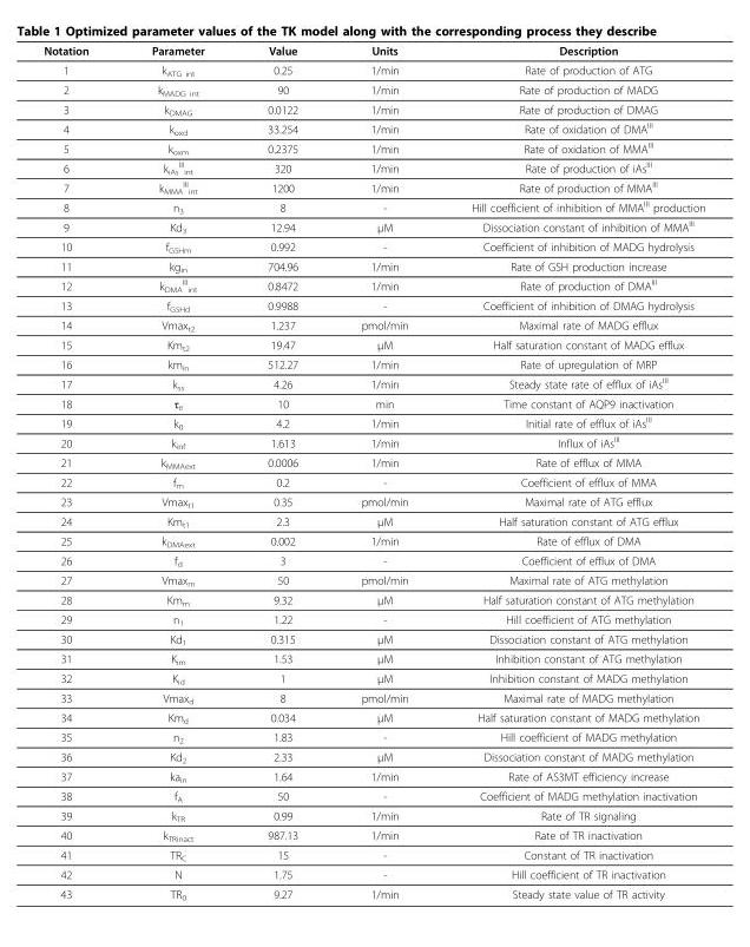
<table><thead><tr><td>Notation</td><td>Parameter</td><td>Value</td><td>Units</td><td>Description</td></tr></thead><tbody><tr><td>1</td><td>k<sub>ATG int</sub></td><td>0.25</td><td>1/min</td><td>Rate of production of ATG</td></tr><tr><td>2</td><td>k<sub>MADG int</sub></td><td>90</td><td>1/min</td><td>Rate of production of MADG</td></tr><tr><td>3</td><td>k<sub>DMAG</sub></td><td>0.0122</td><td>1/min</td><td>Rate of production of DMAG</td></tr><tr><td>4</td><td>k<sub>oxd</sub></td><td>33.254</td><td>1/min</td><td>Rate of oxidation of DMA<sup>III</sup></td></tr><tr><td>5</td><td>k<sub>oxm</sub></td><td>0.2375</td><td>1/min</td><td>Rate of oxidation of MMA<sup>III</sup></td></tr><tr><td>6</td><td>k<sub>iAs</sub> <sup>III</sup> <sub>int</sub></td><td>320</td><td>1/min</td><td>Rate of production of iAs<sup>III</sup></td></tr><tr><td>7</td><td>k<sub>MMA</sub> <sup>III</sup> <sub>int</sub></td><td>1200</td><td>1/min</td><td>Rate of production of MMA<sup>III</sup></td></tr><tr><td>8</td><td>n<sub>3</sub></td><td>8</td><td>-</td><td>Hill coefficient of inhibition of MMA<sup>III</sup> production</td></tr><tr><td>9</td><td>Kd<sub>3</sub></td><td>12.94</td><td>μM</td><td>Dissociation constant of inhibition of MMA<sup>III</sup></td></tr><tr><td>10</td><td>f<sub>GSHm</sub></td><td>0.992</td><td>-</td><td>Coefficient of inhibition of MADG hydrolysis</td></tr><tr><td>11</td><td>kg<sub>in</sub></td><td>704.96</td><td>1/min</td><td>Rate of GSH production increase</td></tr><tr><td>12</td><td>k<sub>DMA</sub> <sup>III</sup> <sub>int</sub></td><td>0.8472</td><td>1/min</td><td>Rate of production of DMA<sup>III</sup></td></tr><tr><td>13</td><td>f<sub>GSHd</sub></td><td>0.9988</td><td>-</td><td>Coefficient of inhibition of DMAG hydrolysis</td></tr><tr><td>14</td><td>Vmax<sub>t2</sub></td><td>1.237</td><td>pmol/min</td><td>Maximal rate of MADG efflux</td></tr><tr><td>15</td><td>Km<sub>t2</sub></td><td>19.47</td><td>μM</td><td>Half saturation constant of MADG efflux</td></tr><tr><td>16</td><td>km<sub>in</sub></td><td>512.27</td><td>1/min</td><td>Rate of upregulation of MRP</td></tr><tr><td>17</td><td>k<sub>ss</sub></td><td>4.26</td><td>1/min</td><td>Steady state rate of efflux of iAs<sup>III</sup></td></tr><tr><td>18</td><td>τ<sub>e</sub></td><td>10</td><td>min</td><td>Time constant of AQP9 inactivation</td></tr><tr><td>19</td><td>k<sub>0</sub></td><td>4.2</td><td>1/min</td><td>Initial rate of efflux of iAs<sup>III</sup></td></tr><tr><td>20</td><td>k<sub>inf</sub></td><td>1.613</td><td>1/min</td><td>Influx of iAs<sup>III</sup></td></tr><tr><td>21</td><td>k<sub>MMAext</sub></td><td>0.0006</td><td>1/min</td><td>Rate of efflux of MMA</td></tr><tr><td>22</td><td>f<sub>m</sub></td><td>0.2</td><td>-</td><td>Coefficient of efflux of MMA</td></tr><tr><td>23</td><td>Vmax<sub>t1</sub></td><td>0.35</td><td>pmol/min</td><td>Maximal rate of ATG efflux</td></tr><tr><td>24</td><td>Km<sub>t1</sub></td><td>2.3</td><td>μM</td><td>Half saturation constant of ATG efflux</td></tr><tr><td>25</td><td>k<sub>DMAext</sub></td><td>0.002</td><td>1/min</td><td>Rate of efflux of DMA</td></tr><tr><td>26</td><td>f<sub>d</sub></td><td>3</td><td>-</td><td>Coefficient of efflux of DMA</td></tr><tr><td>27</td><td>Vmax<sub>m</sub></td><td>50</td><td>pmol/min</td><td>Maximal rate of ATG methylation</td></tr><tr><td>28</td><td>Km<sub>m</sub></td><td>9.32</td><td>μM</td><td>Half saturation constant of ATG methylation</td></tr><tr><td>29</td><td>n<sub>1</sub></td><td>1.22</td><td>-</td><td>Hill coefficient of ATG methylation</td></tr><tr><td>30</td><td>Kd<sub>1</sub></td><td>0.315</td><td>μM</td><td>Dissociation constant of ATG methylation</td></tr><tr><td>31</td><td>K<sub>im</sub></td><td>1.53</td><td>μM</td><td>Inhibition constant of ATG methylation</td></tr><tr><td>32</td><td>K<sub>id</sub></td><td>1</td><td>μM</td><td>Inhibition constant of MADG methylation</td></tr><tr><td>33</td><td>Vmax<sub>d</sub></td><td>8</td><td>pmol/min</td><td>Maximal rate of MADG methylation</td></tr><tr><td>34</td><td>Km<sub>d</sub></td><td>0.034</td><td>μM</td><td>Half saturation constant of MADG methylation</td></tr><tr><td>35</td><td>n<sub>2</sub></td><td>1.83</td><td>-</td><td>Hill coefficient of MADG methylation</td></tr><tr><td>36</td><td>Kd<sub>2</sub></td><td>2.33</td><td>μM</td><td>Dissociation constant of MADG methylation</td></tr><tr><td>37</td><td>ka<sub>in</sub></td><td>1.64</td><td>1/min</td><td>Rate of AS3MT efficiency increase</td></tr><tr><td>38</td><td>f<sub>A</sub></td><td>50</td><td>-</td><td>Coefficient of MADG methylation inactivation</td></tr><tr><td>39</td><td>k<sub>TR</sub></td><td>0.99</td><td>1/min</td><td>Rate of TR signaling</td></tr><tr><td>40</td><td>k<sub>TRinact</sub></td><td>987.13</td><td>1/min</td><td>Rate of TR inactivation</td></tr><tr><td>41</td><td>TR<sub>C</sub></td><td>15</td><td>-</td><td>Constant of TR inactivation</td></tr><tr><td>42</td><td>N</td><td>1.75</td><td>-</td><td>Hill coefficient of TR inactivation</td></tr><tr><td>43</td><td>TR<sub>0</sub></td><td>9.27</td><td>1/min</td><td>Steady state value of TR activity</td></tr></tbody></table>